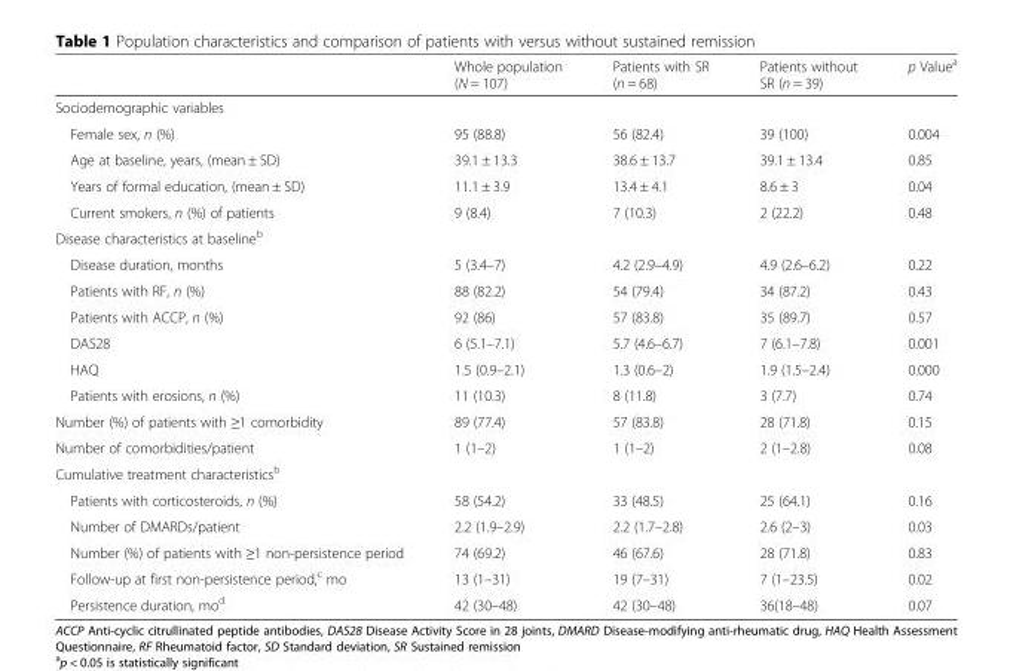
<table><thead><tr><td></td><td>Whole population (N = 107)</td><td>Patients with SR (n = 68)</td><td>Patients without SR (n = 39)</td><td>p Value<sup>a</sup></td></tr></thead><tbody><tr><td colspan="5">Sociodemographic variables</td></tr><tr><td>Female sex, n (%)</td><td>95 (88.8)</td><td>56 (82.4)</td><td>39 (100)</td><td>0.004</td></tr><tr><td>Age at baseline, years, (mean ± SD)</td><td>39.1 ± 13.3</td><td>38.6 ± 13.7</td><td>39.1 ± 13.4</td><td>0.85</td></tr><tr><td>Years of formal education, (mean ± SD)</td><td>11.1 ± 3.9</td><td>13.4 ± 4.1</td><td>8.6 ± 3</td><td>0.04</td></tr><tr><td>Current smokers, n (%) of patients</td><td>9 (8.4)</td><td>7 (10.3)</td><td>2 (22.2)</td><td>0.48</td></tr><tr><td colspan="5">Disease characteristics at baseline<sup>b</sup></td></tr><tr><td>Disease duration, months</td><td>5 (3.4–7)</td><td>4.2 (2.9–4.9)</td><td>4.9 (2.6–6.2)</td><td>0.22</td></tr><tr><td>Patients with RF, n (%)</td><td>88 (82.2)</td><td>54 (79.4)</td><td>34 (87.2)</td><td>0.43</td></tr><tr><td>Patients with ACCP, n (%)</td><td>92 (86)</td><td>57 (83.8)</td><td>35 (89.7)</td><td>0.57</td></tr><tr><td>DAS28</td><td>6 (5.1–7.1)</td><td>5.7 (4.6–6.7)</td><td>7 (6.1–7.8)</td><td>0.001</td></tr><tr><td>HAQ</td><td>1.5 (0.9–2.1)</td><td>1.3 (0.6–2)</td><td>1.9 (1.5–2.4)</td><td>0.000</td></tr><tr><td>Patients with erosions, n (%)</td><td>11 (10.3)</td><td>8 (11.8)</td><td>3 (7.7)</td><td>0.74</td></tr><tr><td>Number (%) of patients with ≥1 comorbidity</td><td>89 (77.4)</td><td>57 (83.8)</td><td>28 (71.8)</td><td>0.15</td></tr><tr><td>Number of comorbidities/patient</td><td>1 (1–2)</td><td>1 (1–2)</td><td>2 (1–2.8)</td><td>0.08</td></tr><tr><td colspan="5">Cumulative treatment characteristics<sup>b</sup></td></tr><tr><td>Patients with corticosteroids, n (%)</td><td>58 (54.2)</td><td>33 (48.5)</td><td>25 (64.1)</td><td>0.16</td></tr><tr><td>Number of DMARDs/patient</td><td>2.2 (1.9–2.9)</td><td>2.2 (1.7–2.8)</td><td>2.6 (2–3)</td><td>0.03</td></tr><tr><td>Number (%) of patients with ≥1 non-persistence period</td><td>74 (69.2)</td><td>46 (67.6)</td><td>28 (71.8)</td><td>0.83</td></tr><tr><td>Follow-up at first non-persistence period,<sup>c</sup> mo</td><td>13 (1–31)</td><td>19 (7–31)</td><td>7 (1–23.5)</td><td>0.02</td></tr><tr><td>Persistence duration, mo<sup>d</sup></td><td>42 (30–48)</td><td>42 (30–48)</td><td>36(18–48)</td><td>0.07</td></tr></tbody></table>